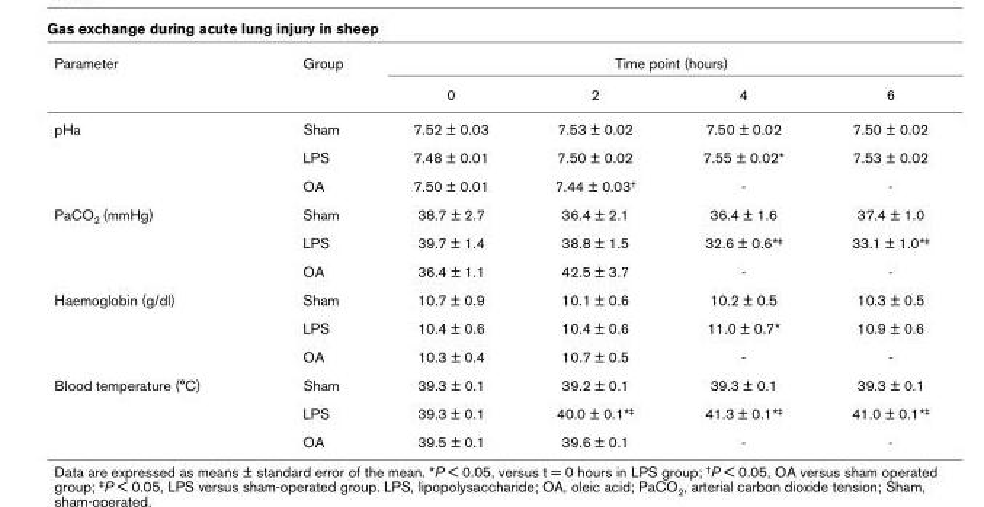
<table><thead><tr><td rowspan="2">Parameter</td><td rowspan="2">Group</td><td colspan="4">Time point (hours)</td></tr><tr><td>0</td><td>2</td><td>4</td><td>6</td></tr></thead><tbody><tr><td rowspan="3">pHa</td><td>Sham</td><td>7.52 ± 0.03</td><td>7.53 ± 0.02</td><td>7.50 ± 0.02</td><td>7.50 ± 0.02</td></tr><tr><td>LPS</td><td>7.48 ± 0.01</td><td>7.50 ± 0.02</td><td>7.55 ± 0.02*</td><td>7.53 ± 0.02</td></tr><tr><td>OA</td><td>7.50 ± 0.01</td><td>7.44 ± 0.03†</td><td>-</td><td>-</td></tr><tr><td rowspan="3">PaCO2 (mmHg)</td><td>Sham</td><td>38.7 ± 2.7</td><td>36.4 ± 2.1</td><td>36.4 ± 1.6</td><td>37.4 ± 1.0</td></tr><tr><td>LPS</td><td>39.7 ± 1.4</td><td>38.8 ± 1.5</td><td>32.6 ± 0.6*‡</td><td>33.1 ± 1.0*‡</td></tr><tr><td>OA</td><td>36.4 ± 1.1</td><td>42.5 ± 3.7</td><td>-</td><td>-</td></tr><tr><td rowspan="3">Haemoglobin (g/dl)</td><td>Sham</td><td>10.7 ± 0.9</td><td>10.1 ± 0.6</td><td>10.2 ± 0.5</td><td>10.3 ± 0.5</td></tr><tr><td>LPS</td><td>10.4 ± 0.6</td><td>10.4 ± 0.6</td><td>11.0 ± 0.7*</td><td>10.9 ± 0.6</td></tr><tr><td>OA</td><td>10.3 ± 0.4</td><td>10.7 ± 0.5</td><td>-</td><td>-</td></tr><tr><td rowspan="3">Blood temperature (°C)</td><td>Sham</td><td>39.3 ± 0.1</td><td>39.2 ± 0.1</td><td>39.3 ± 0.1</td><td>39.3 ± 0.1</td></tr><tr><td>LPS</td><td>39.3 ± 0.1</td><td>40.0 ± 0.1*‡</td><td>41.3 ± 0.1*‡</td><td>41.0 ± 0.1*‡</td></tr><tr><td>OA</td><td>39.5 ± 0.1</td><td>39.6 ± 0.1</td><td>-</td><td>-</td></tr></tbody></table>